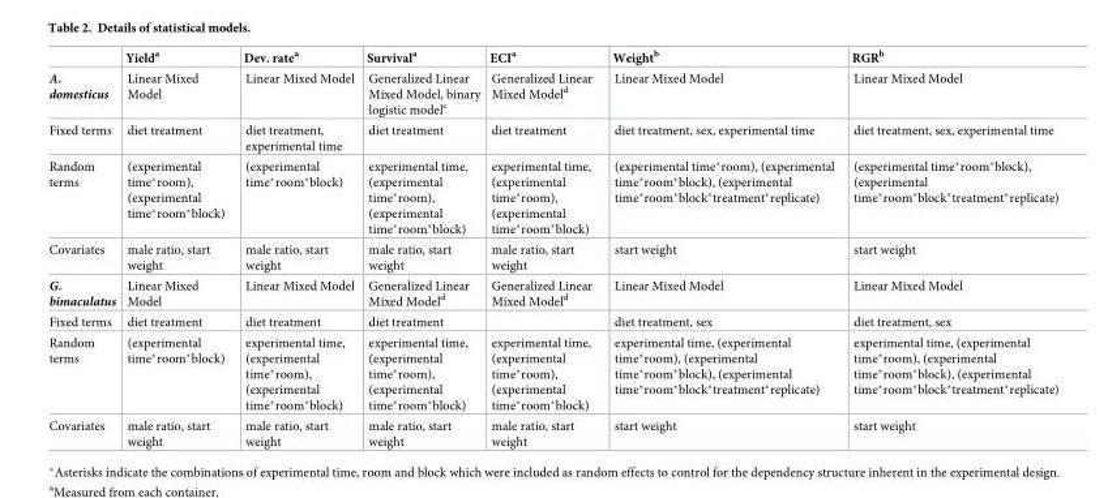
<table><thead><tr><td></td><td>Yield<sup>a</sup></td><td>Dev. rate<sup>a</sup></td><td>Survival<sup>a</sup></td><td>ECI<sup>a</sup></td><td>Weight<sup>b</sup></td><td>RGR<sup>b</sup></td></tr></thead><tbody><tr><td>A. domesticus</td><td>Linear Mixed Model</td><td>Linear Mixed Model</td><td>Generalized Linear Mixed Model, binary logistic model<sup>c</sup></td><td>Generalized Linear Mixed Model<sup>d</sup></td><td>Linear Mixed Model</td><td>Linear Mixed Model</td></tr><tr><td>Fixed terms</td><td>diet treatment</td><td>diet treatment, experimental time</td><td>diet treatment</td><td>diet treatment</td><td>diet treatment, sex, experimental time</td><td>diet treatment, sex, experimental time</td></tr><tr><td>Random terms</td><td>(experimental time*room), (experimental time*room*block)</td><td>(experimental time*room*block)</td><td>experimental time, (experimental time*room), (experimental time*room*block)</td><td>experimental time, (experimental time*room), (experimental time*room*block)</td><td>(experimental time*room), (experimental time*room*block), (experimental time*room*block*treatment*replicate)</td><td>(experimental time*room*block), (experimental time*room*block*treatment*replicate)</td></tr><tr><td>Covariates</td><td>male ratio, start weight</td><td>male ratio, start weight</td><td>male ratio, start weight</td><td>male ratio, start weight</td><td>start weight</td><td>start weight</td></tr><tr><td>G. bimaculatus</td><td>Linear Mixed Model</td><td>Linear Mixed Model</td><td>Generalized Linear Mixed Model<sup>d</sup></td><td>Generalized Linear Mixed Model<sup>d</sup></td><td>Linear Mixed Model</td><td>Linear Mixed Model</td></tr><tr><td>Fixed terms</td><td>diet treatment</td><td>diet treatment</td><td>diet treatment</td><td></td><td>diet treatment, sex</td><td>diet treatment, sex</td></tr><tr><td>Random terms</td><td>(experimental time*room*block)</td><td>experimental time, (experimental time*room), (experimental time*room*block)</td><td>experimental time, (experimental time*room), (experimental time*room*block)</td><td>experimental time, (experimental time*room), (experimental time*room*block)</td><td>experimental time, (experimental time*room), (experimental time*room*block), (experimental time*room*block*treatment*replicate)</td><td>experimental time, (experimental time*room), (experimental time*room*block), (experimental time*room*block*treatment*replicate)</td></tr><tr><td>Covariates</td><td>male ratio, start weight</td><td>male ratio, start weight</td><td>male ratio, start weight</td><td>male ratio, start weight</td><td>start weight</td><td>start weight</td></tr></tbody></table>